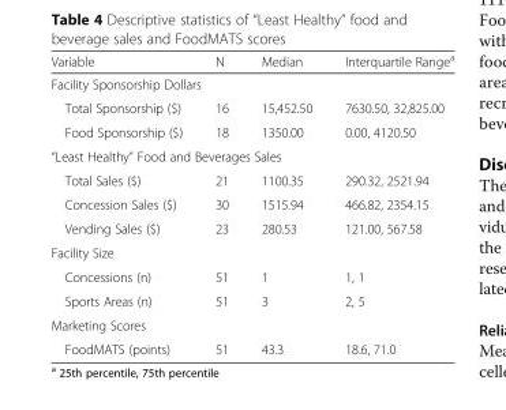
<table><thead><tr><td>Variable</td><td>N</td><td>Median</td><td>Interquartile Range<sup>a</sup></td></tr></thead><tbody><tr><td colspan="4">Facility Sponsorship Dollars</td></tr><tr><td>Total Sponsorship ($)</td><td>16</td><td>15,452.50</td><td>7630.50, 32,825.00</td></tr><tr><td>Food Sponsorship ($)</td><td>18</td><td>1350.00</td><td>0.00, 4120.50</td></tr><tr><td colspan="4">“Least Healthy” Food and Beverages Sales</td></tr><tr><td>Total Sales ($)</td><td>21</td><td>1100.35</td><td>290.32, 2521.94</td></tr><tr><td>Concession Sales ($)</td><td>30</td><td>1515.94</td><td>466.82, 2354.15</td></tr><tr><td>Vending Sales ($)</td><td>23</td><td>280.53</td><td>121.00, 567.58</td></tr><tr><td colspan="4">Facility Size</td></tr><tr><td>Concessions (n)</td><td>51</td><td>1</td><td>1, 1</td></tr><tr><td>Sports Areas (n)</td><td>51</td><td>3</td><td>2, 5</td></tr><tr><td colspan="4">Marketing Scores</td></tr><tr><td>FoodMATS (points)</td><td>51</td><td>43.3</td><td>18.6, 71.0</td></tr></tbody></table>